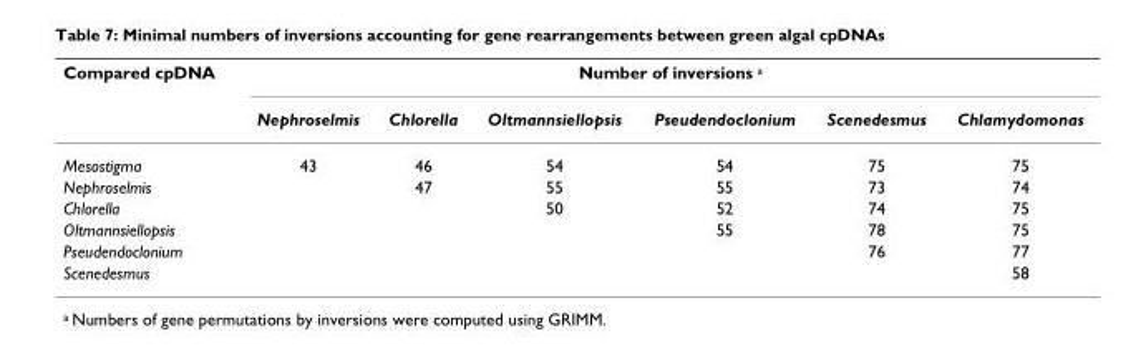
<table><thead><tr><td rowspan="2">Compared cpDNA</td><td colspan="6">Number of inversions <sup>a</sup></td></tr><tr><td>Nephroselmis</td><td>Chlorella</td><td>Oltmannsiellopsis</td><td>Pseudendoclonium</td><td>Scenedesmus</td><td>Chlamydomonas</td></tr></thead><tbody><tr><td>Mesostigma</td><td>43</td><td>46</td><td>54</td><td>54</td><td>75</td><td>75</td></tr><tr><td>Nephroselmis</td><td></td><td>47</td><td>55</td><td>55</td><td>73</td><td>74</td></tr><tr><td>Chlorella</td><td></td><td></td><td>50</td><td>52</td><td>74</td><td>75</td></tr><tr><td>Oltmannsiellopsis</td><td></td><td></td><td></td><td>55</td><td>78</td><td>75</td></tr><tr><td>Pseudendoclonium</td><td></td><td></td><td></td><td></td><td>76</td><td>77</td></tr><tr><td>Scenedesmus</td><td></td><td></td><td></td><td></td><td></td><td>58</td></tr></tbody></table>